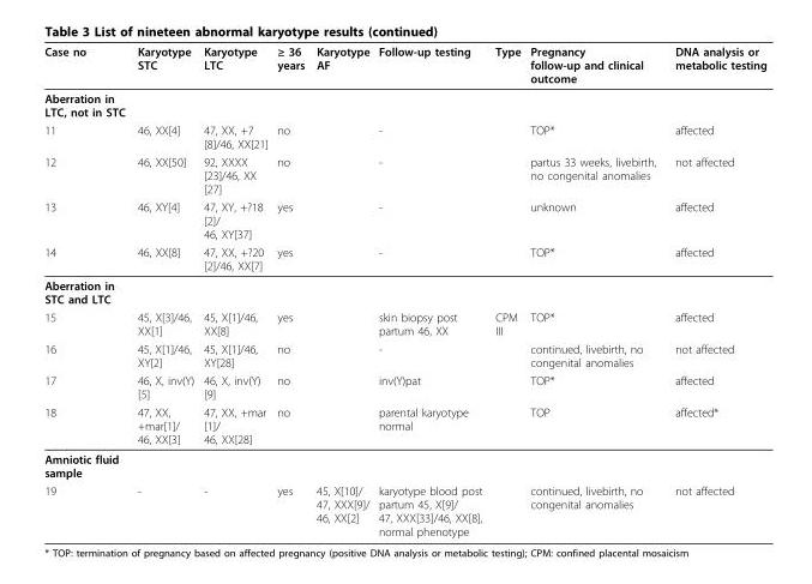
<table><thead><tr><td>Case no</td><td>Karyotype STC</td><td>Karyotype LTC</td><td>≥ 36 years</td><td>Karyotype AF</td><td>Follow-up testing</td><td>Type</td><td>Pregnancy follow-up and clinical outcome</td><td>DNA analysis or metabolic testing</td></tr></thead><tbody><tr><td colspan="9">Aberration in LTC, not in STC</td></tr><tr><td>11</td><td>46, XX[4]</td><td>47, XX, +7 [8]/46, XX[21]</td><td>no</td><td></td><td>-</td><td></td><td>TOP*</td><td>affected</td></tr><tr><td>12</td><td>46, XX[50]</td><td>92, XXXX [23]/46, XX [27]</td><td>no</td><td></td><td>-</td><td></td><td>partus 33 weeks, livebirth, no congenital anomalies</td><td>not affected</td></tr><tr><td>13</td><td>46, XY[4]</td><td>47, XY, +?18 [2]/ 46, XY[37]</td><td>yes</td><td></td><td>-</td><td></td><td>unknown</td><td>affected</td></tr><tr><td>14</td><td>46, XX[8]</td><td>47, XX, +?20 [2]/46, XX[7]</td><td>yes</td><td></td><td>-</td><td></td><td>TOP*</td><td>affected</td></tr><tr><td colspan="9">Aberration in STC and LTC</td></tr><tr><td>15</td><td>45, X[3]/46, XX[1]</td><td>45, X[1]/46, XX[8]</td><td>yes</td><td></td><td>skin biopsy post partum 46, XX</td><td>CPM III</td><td>TOP*</td><td>affected</td></tr><tr><td>16</td><td>45, X[1]/46, XY[2]</td><td>45, X[1]/46, XY[28]</td><td>no</td><td></td><td>-</td><td></td><td>continued, livebirth, no congenital anomalies</td><td>not affected</td></tr><tr><td>17</td><td>46, X, inv(Y) [5]</td><td>46, X, inv(Y) [9]</td><td>no</td><td></td><td>inv(Y)pat</td><td></td><td>TOP*</td><td>affected</td></tr><tr><td>18</td><td>47, XX, +mar[1]/ 46, XX[3]</td><td>47, XX, +mar [1]/ 46, XX[28]</td><td>no</td><td></td><td>parental karyotype normal</td><td></td><td>TOP</td><td>affected*</td></tr><tr><td colspan="9">Amniotic fluid sample</td></tr><tr><td>19</td><td>-</td><td>-</td><td>yes</td><td>45, X[10]/ 47, XXX[9]/ 46, XX[2]</td><td>karyotype blood post partum 45, X[9]/ 47, XXX[33]/46, XX[8], normal phenotype</td><td></td><td>continued, livebirth, no congenital anomalies</td><td>not affected</td></tr></tbody></table>